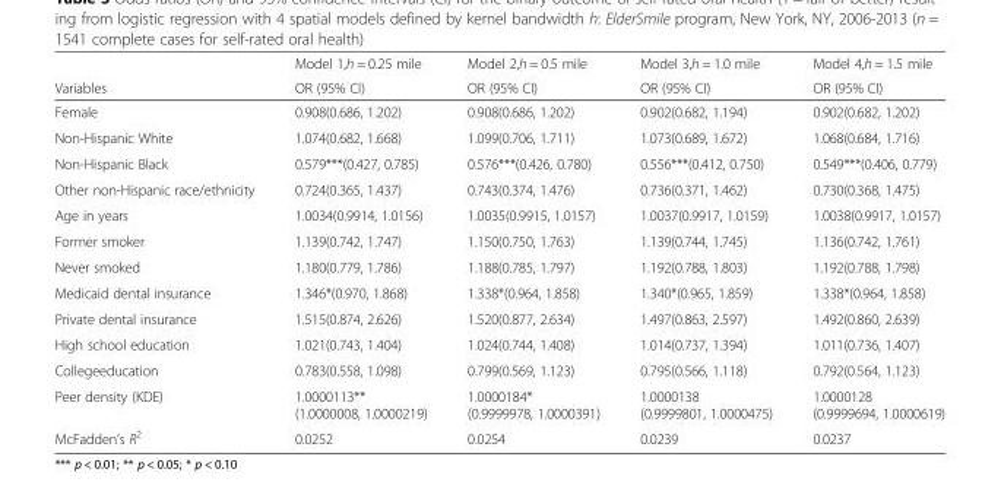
<table><thead><tr><td rowspan="2">Variables</td><td rowspan="2">Model 1,h = 0.25 mile OR (95% CI)</td><td rowspan="2">Model 2,h = 0.5 mile OR (95% CI)</td><td rowspan="2">Model 3,h = 1.0 mile OR (95% CI)</td><td rowspan="2">Model 4,h = 1.5 mile OR (95% CI)</td></tr><tr></tr></thead><tbody><tr><td>Female</td><td>0.908(0.686, 1.202)</td><td>0.908(0.686, 1.202)</td><td>0.902(0.682, 1.194)</td><td>0.902(0.682, 1.202)</td></tr><tr><td>Non-Hispanic White</td><td>1.074(0.682, 1.668)</td><td>1.099(0.706, 1.711)</td><td>1.073(0.689, 1.672)</td><td>1.068(0.684, 1.716)</td></tr><tr><td>Non-Hispanic Black</td><td>0.579***(0.427, 0.785)</td><td>0.576***(0.426, 0.780)</td><td>0.556***(0.412, 0.750)</td><td>0.549***(0.406, 0.779)</td></tr><tr><td>Other non-Hispanic race/ethnicity</td><td>0.724(0.365, 1.437)</td><td>0.743(0.374, 1.476)</td><td>0.736(0.371, 1.462)</td><td>0.730(0.368, 1.475)</td></tr><tr><td>Age in years</td><td>1.0034(0.9914, 1.0156)</td><td>1.0035(0.9915, 1.0157)</td><td>1.0037(0.9917, 1.0159)</td><td>1.0038(0.9917, 1.0157)</td></tr><tr><td>Former smoker</td><td>1.139(0.742, 1.747)</td><td>1.150(0.750, 1.763)</td><td>1.139(0.744, 1.745)</td><td>1.136(0.742, 1.761)</td></tr><tr><td>Never smoked</td><td>1.180(0.779, 1.786)</td><td>1.188(0.785, 1.797)</td><td>1.192(0.788, 1.803)</td><td>1.192(0.788, 1.798)</td></tr><tr><td>Medicaid dental insurance</td><td>1.346*(0.970, 1.868)</td><td>1.338*(0.964, 1.858)</td><td>1.340*(0.965, 1.859)</td><td>1.338*(0.964, 1.858)</td></tr><tr><td>Private dental insurance</td><td>1.515(0.874, 2.626)</td><td>1.520(0.877, 2.634)</td><td>1.497(0.863, 2.597)</td><td>1.492(0.860, 2.639)</td></tr><tr><td>High school education</td><td>1.021(0.743, 1.404)</td><td>1.024(0.744, 1.408)</td><td>1.014(0.737, 1.394)</td><td>1.011(0.736, 1.407)</td></tr><tr><td>Collegeeducation</td><td>0.783(0.558, 1.098)</td><td>0.799(0.569, 1.123)</td><td>0.795(0.566, 1.118)</td><td>0.792(0.564, 1.123)</td></tr><tr><td>Peer density (KDE)</td><td>1.0000113** (1.0000008, 1.0000219)</td><td>1.0000184* (0.9999978, 1.0000391)</td><td>1.0000138 (0.9999801, 1.0000475)</td><td>1.0000128 (0.9999694, 1.0000619)</td></tr><tr><td>McFadden’s R<sup>2</sup></td><td>0.0252</td><td>0.0254</td><td>0.0239</td><td>0.0237</td></tr></tbody></table>